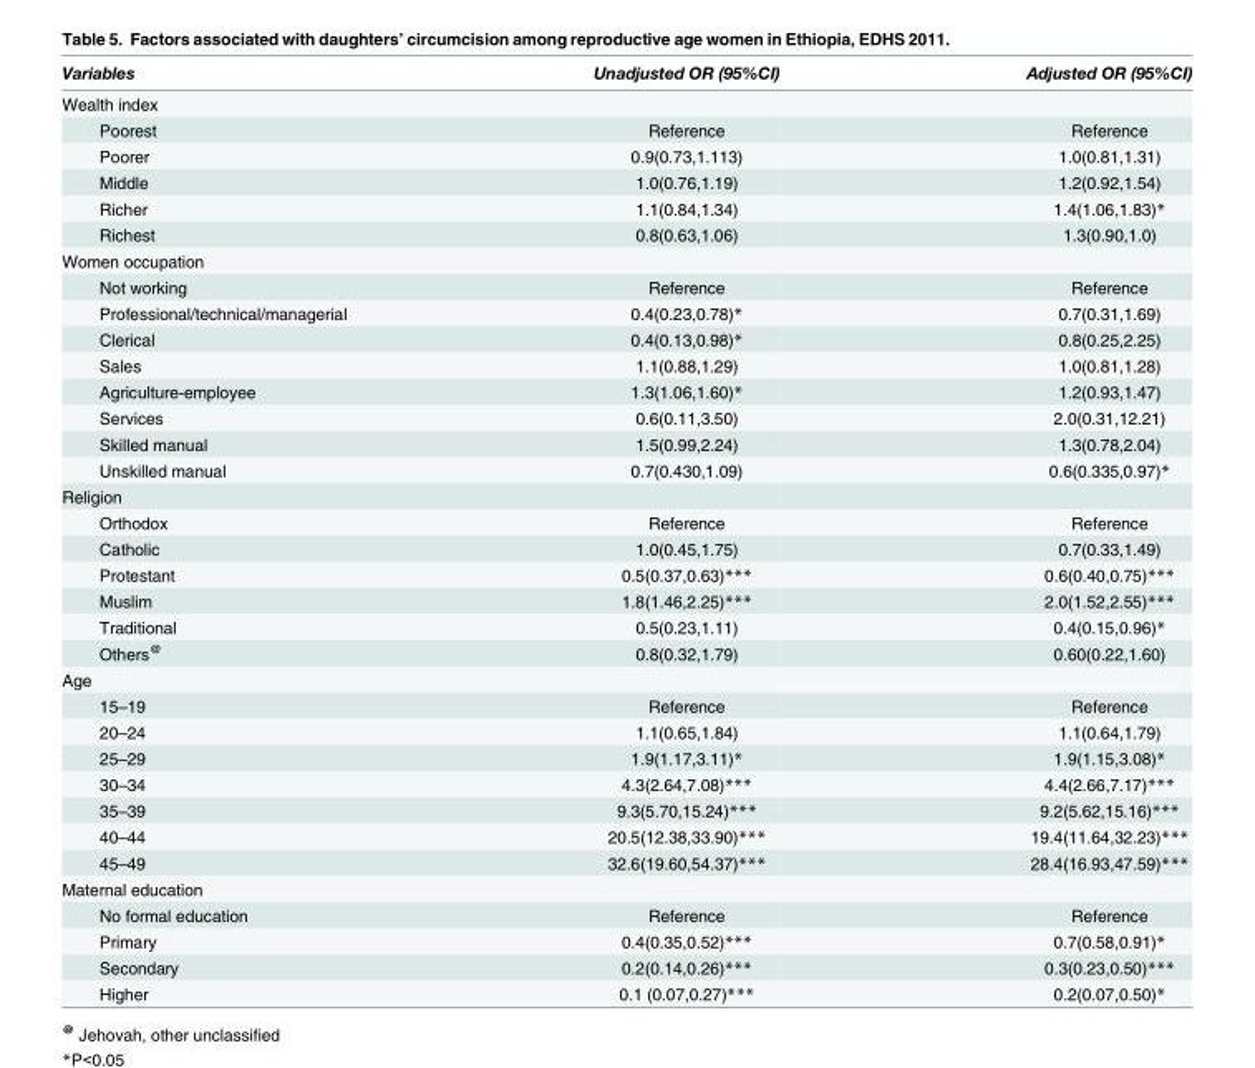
<table><thead><tr><td>Variables</td><td>Unadjusted OR (95%CI)</td><td>Adjusted OR (95%CI)</td></tr></thead><tbody><tr><td colspan="3">Wealth index</td></tr><tr><td>Poorest</td><td>Reference</td><td>Reference</td></tr><tr><td>Poorer</td><td>0.9(0.73,1.113)</td><td>1.0(0.81,1.31)</td></tr><tr><td>Middle</td><td>1.0(0.76,1.19)</td><td>1.2(0.92,1.54)</td></tr><tr><td>Richer</td><td>1.1(0.84,1.34)</td><td>1.4(1.06,1.83)*</td></tr><tr><td>Richest</td><td>0.8(0.63,1.06)</td><td>1.3(0.90,1.0)</td></tr><tr><td colspan="3">Women occupation</td></tr><tr><td>Not working</td><td>Reference</td><td>Reference</td></tr><tr><td>Professional/technical/managerial</td><td>0.4(0.23,0.78)*</td><td>0.7(0.31,1.69)</td></tr><tr><td>Clerical</td><td>0.4(0.13,0.98)*</td><td>0.8(0.25,2.25)</td></tr><tr><td>Sales</td><td>1.1(0.88,1.29)</td><td>1.0(0.81,1.28)</td></tr><tr><td>Agriculture-employee</td><td>1.3(1.06,1.60)*</td><td>1.2(0.93,1.47)</td></tr><tr><td>Services</td><td>0.6(0.11,3.50)</td><td>2.0(0.31,12.21)</td></tr><tr><td>Skilled manual</td><td>1.5(0.99,2.24)</td><td>1.3(0.78,2.04)</td></tr><tr><td>Unskilled manual</td><td>0.7(0.430,1.09)</td><td>0.6(0.335,0.97)*</td></tr><tr><td colspan="3">Religion</td></tr><tr><td>Orthodox</td><td>Reference</td><td>Reference</td></tr><tr><td>Catholic</td><td>1.0(0.45,1.75)</td><td>0.7(0.33,1.49)</td></tr><tr><td>Protestant</td><td>0.5(0.37,0.63)***</td><td>0.6(0.40,0.75)***</td></tr><tr><td>Muslim</td><td>1.8(1.46,2.25)***</td><td>2.0(1.52,2.55)***</td></tr><tr><td>Traditional</td><td>0.5(0.23,1.11)</td><td>0.4(0.15,0.96)*</td></tr><tr><td>Others<sup>@</sup></td><td>0.8(0.32,1.79)</td><td>0.60(0.22,1.60)</td></tr><tr><td colspan="3">Age</td></tr><tr><td>15–19</td><td>Reference</td><td>Reference</td></tr><tr><td>20–24</td><td>1.1(0.65,1.84)</td><td>1.1(0.64,1.79)</td></tr><tr><td>25–29</td><td>1.9(1.17,3.11)*</td><td>1.9(1.15,3.08)*</td></tr><tr><td>30–34</td><td>4.3(2.64,7.08)***</td><td>4.4(2.66,7.17)***</td></tr><tr><td>35–39</td><td>9.3(5.70,15.24)***</td><td>9.2(5.62,15.16)***</td></tr><tr><td>40–44</td><td>20.5(12.38,33.90)***</td><td>19.4(11.64,32.23)***</td></tr><tr><td>45–49</td><td>32.6(19.60,54.37)***</td><td>28.4(16.93,47.59)***</td></tr><tr><td colspan="3">Maternal education</td></tr><tr><td>No formal education</td><td>Reference</td><td>Reference</td></tr><tr><td>Primary</td><td>0.4(0.35,0.52)***</td><td>0.7(0.58,0.91)*</td></tr><tr><td>Secondary</td><td>0.2(0.14,0.26)***</td><td>0.3(0.23,0.50)***</td></tr><tr><td>Higher</td><td>0.1 (0.07,0.27)***</td><td>0.2(0.07,0.50)*</td></tr></tbody></table>